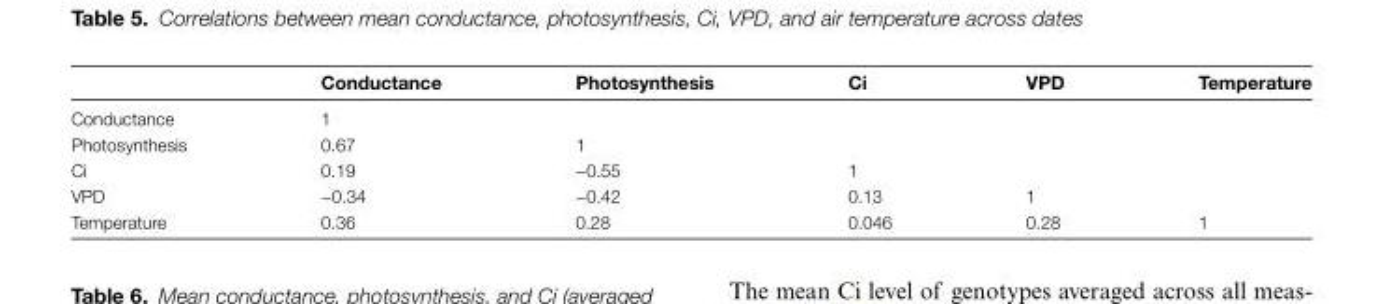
<table><thead><tr><td></td><td>Conductance</td><td>Photosynthesis</td><td>Ci</td><td>VPD</td><td>Temperature</td></tr></thead><tbody><tr><td>Conductance</td><td>1</td><td></td><td></td><td></td><td></td></tr><tr><td>Photosynthesis</td><td>0.67</td><td>1</td><td></td><td></td><td></td></tr><tr><td>Ci</td><td>0.19</td><td>−0.55</td><td>1</td><td></td><td></td></tr><tr><td>VPD</td><td>−0.34</td><td>−0.42</td><td>0.13</td><td>1</td><td></td></tr><tr><td>Temperature</td><td>0.36</td><td>0.28</td><td>0.046</td><td>0.28</td><td>1</td></tr></tbody></table>